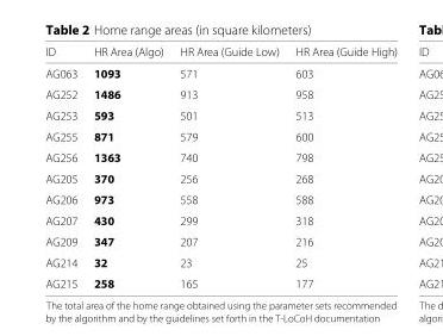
<table><thead><tr><td>ID</td><td>HR Area (Algo)</td><td>HR Area (Guide Low)</td><td>HR Area (Guide High)</td></tr></thead><tbody><tr><td>AG063</td><td>1093</td><td>571</td><td>603</td></tr><tr><td>AG252</td><td>1486</td><td>913</td><td>958</td></tr><tr><td>AG253</td><td>593</td><td>501</td><td>513</td></tr><tr><td>AG255</td><td>871</td><td>579</td><td>600</td></tr><tr><td>AG256</td><td>1363</td><td>740</td><td>798</td></tr><tr><td>AG205</td><td>370</td><td>256</td><td>268</td></tr><tr><td>AG206</td><td>973</td><td>558</td><td>588</td></tr><tr><td>AG207</td><td>430</td><td>299</td><td>318</td></tr><tr><td>AG209</td><td>347</td><td>207</td><td>216</td></tr><tr><td>AG214</td><td>32</td><td>23</td><td>25</td></tr><tr><td>AG215</td><td>258</td><td>165</td><td>177</td></tr></tbody></table>